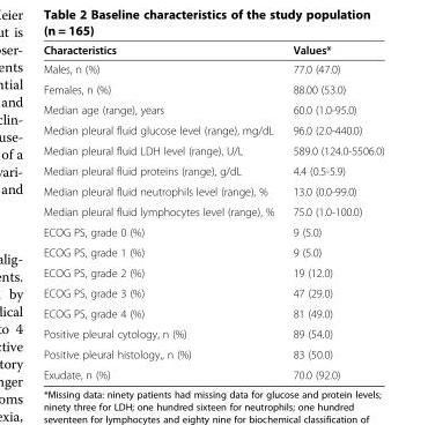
<table><thead><tr><td>Characteristics</td><td>Values*</td></tr></thead><tbody><tr><td>Males, n (%)</td><td>77.0 (47.0)</td></tr><tr><td>Females, n (%)</td><td>88.00 (53.0)</td></tr><tr><td>Median age (range), years</td><td>60.0 (1.0-95.0)</td></tr><tr><td>Median pleural fluid glucose level (range), mg/dL</td><td>96.0 (2.0-440.0)</td></tr><tr><td>Median pleural fluid LDH level (range), U/L</td><td>589.0 (124.0-5506.0)</td></tr><tr><td>Median pleural fluid proteins (range), g/dL</td><td>4.4 (0.5-5.9)</td></tr><tr><td>Median pleural fluid neutrophils level (range), %</td><td>13.0 (0.0-99.0)</td></tr><tr><td>Median pleural fluid lymphocytes level (range), %</td><td>75.0 (1.0-100.0)</td></tr><tr><td>ECOG PS, grade 0 (%)</td><td>9 (5.0)</td></tr><tr><td>ECOG PS, grade 1 (%)</td><td>9 (5.0)</td></tr><tr><td>ECOG PS, grade 2 (%)</td><td>19 (12.0)</td></tr><tr><td>ECOG PS, grade 3 (%)</td><td>47 (29.0)</td></tr><tr><td>ECOG PS, grade 4 (%)</td><td>81 (49.0)</td></tr><tr><td>Positive pleural cytology, n (%)</td><td>89 (54.0)</td></tr><tr><td>Positive pleural histology,, n (%)</td><td>83 (50.0)</td></tr><tr><td>Exudate, n (%)</td><td>70.0 (92.0)</td></tr></tbody></table>